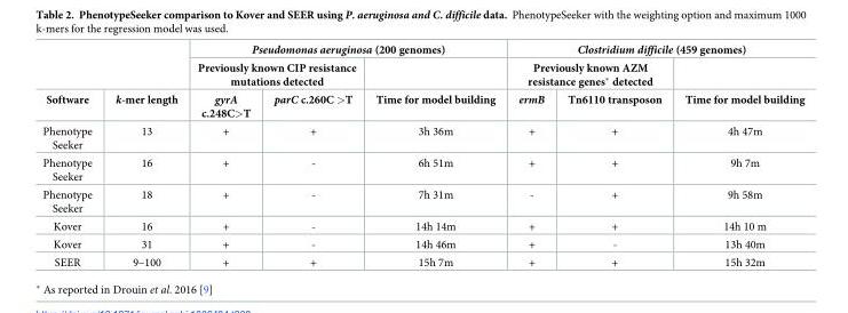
<table><thead><tr><td rowspan="3">Software</td><td rowspan="3">k-mer length</td><td colspan="3">Pseudomonas aeruginosa (200 genomes)</td><td colspan="3">Clostridium difficile (459 genomes)</td></tr><tr><td colspan="2">Previously known CIP resistance mutations detected</td><td rowspan="2">Time for model building</td><td colspan="2">Previously known AZM resistance genes* detected</td><td rowspan="2">Time for model building</td></tr><tr><td>gyrA c.248C&gt;T</td><td>parC c.260C &gt;T</td><td>ermB</td><td>Tn6110 transposon</td></tr></thead><tbody><tr><td>Phenotype Seeker</td><td>13</td><td>+</td><td>+</td><td>3h 36m</td><td>+</td><td>+</td><td>4h 47m</td></tr><tr><td>Phenotype Seeker</td><td>16</td><td>+</td><td>-</td><td>6h 51m</td><td>+</td><td>+</td><td>9h 7m</td></tr><tr><td>Phenotype Seeker</td><td>18</td><td>+</td><td>-</td><td>7h 31m</td><td>-</td><td>+</td><td>9h 58m</td></tr><tr><td>Kover</td><td>16</td><td>+</td><td>-</td><td>14h 14m</td><td>+</td><td>+</td><td>14h 10 m</td></tr><tr><td>Kover</td><td>31</td><td>+</td><td>-</td><td>14h 46m</td><td>+</td><td>-</td><td>13h 40m</td></tr><tr><td>SEER</td><td>9–100</td><td>+</td><td>+</td><td>15h 7m</td><td>+</td><td>+</td><td>15h 32m</td></tr></tbody></table>